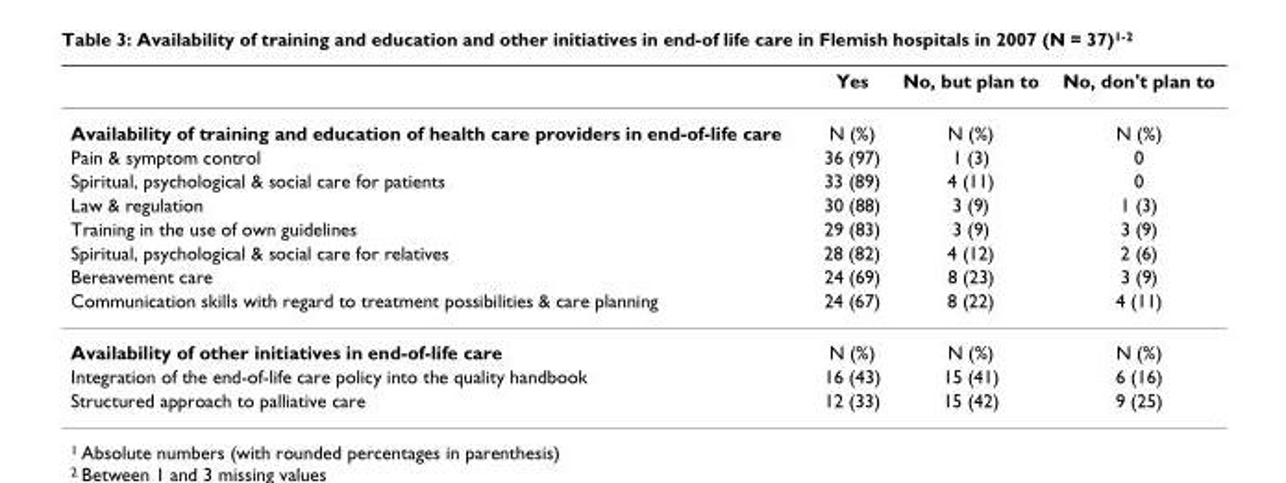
<table><thead><tr><td></td><td>Yes</td><td>No, but plan to</td><td>No, don&#x27;t plan to</td></tr></thead><tbody><tr><td>Availability of training and education of health care providers in end-of-life care</td><td>N (%)</td><td>N (%)</td><td>N (%)</td></tr><tr><td>Pain &amp; symptom control</td><td>36 (97)</td><td>1 (3)</td><td>0</td></tr><tr><td>Spiritual, psychological &amp; social care for patients</td><td>33 (89)</td><td>4 (11)</td><td>0</td></tr><tr><td>Law &amp; regulation</td><td>30 (88)</td><td>3 (9)</td><td>1 (3)</td></tr><tr><td>Training in the use of own guidelines</td><td>29 (83)</td><td>3 (9)</td><td>3 (9)</td></tr><tr><td>Spiritual, psychological &amp; social care for relatives</td><td>28 (82)</td><td>4 (12)</td><td>2 (6)</td></tr><tr><td>Bereavement care</td><td>24 (69)</td><td>8 (23)</td><td>3 (9)</td></tr><tr><td>Communication skills with regard to treatment possibilities &amp; care planning</td><td>24 (67)</td><td>8 (22)</td><td>4 (11)</td></tr><tr><td>Availability of other initiatives in end-of-life care</td><td>N (%)</td><td>N (%)</td><td>N (%)</td></tr><tr><td>Integration of the end-of-life care policy into the quality handbook</td><td>16 (43)</td><td>15 (41)</td><td>6 (16)</td></tr><tr><td>Structured approach to palliative care</td><td>12 (33)</td><td>15 (42)</td><td>9 (25)</td></tr></tbody></table>